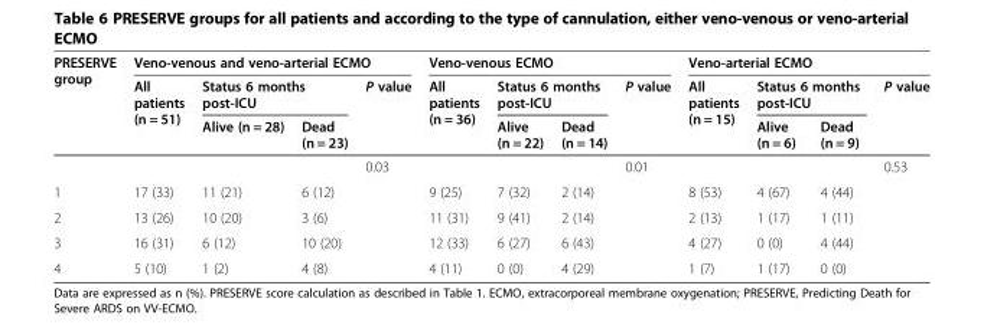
<table><thead><tr><td rowspan="3">PRESERVE group</td><td colspan="4">Veno-venous and veno-arterial ECMO</td><td colspan="4">Veno-venous ECMO</td><td colspan="4">Veno-arterial ECMO</td></tr><tr><td rowspan="2">All patients (n = 51)</td><td colspan="2">Status 6 months post-ICU</td><td rowspan="2">P value</td><td rowspan="2">All patients (n = 36)</td><td colspan="2">Status 6 months post-ICU</td><td rowspan="2">P value</td><td rowspan="2">All patients (n = 15)</td><td colspan="2">Status 6 months post-ICU</td><td rowspan="2">P value</td></tr><tr><td>Alive (n = 28)</td><td>Dead (n = 23)</td><td>Alive (n = 22)</td><td>Dead (n = 14)</td><td>Alive (n = 6)</td><td>Dead (n = 9)</td></tr></thead><tbody><tr><td></td><td></td><td></td><td></td><td>0.03</td><td></td><td></td><td></td><td>0.01</td><td></td><td></td><td></td><td>0.53</td></tr><tr><td>1</td><td>17 (33)</td><td>11 (21)</td><td>6 (12)</td><td></td><td>9 (25)</td><td>7 (32)</td><td>2 (14)</td><td></td><td>8 (53)</td><td>4 (67)</td><td>4 (44)</td><td></td></tr><tr><td>2</td><td>13 (26)</td><td>10 (20)</td><td>3 (6)</td><td></td><td>11 (31)</td><td>9 (41)</td><td>2 (14)</td><td></td><td>2 (13)</td><td>1 (17)</td><td>1 (11)</td><td></td></tr><tr><td>3</td><td>16 (31)</td><td>6 (12)</td><td>10 (20)</td><td></td><td>12 (33)</td><td>6 (27)</td><td>6 (43)</td><td></td><td>4 (27)</td><td>0 (0)</td><td>4 (44)</td><td></td></tr><tr><td>4</td><td>5 (10)</td><td>1 (2)</td><td>4 (8)</td><td></td><td>4 (11)</td><td>0 (0)</td><td>4 (29)</td><td></td><td>1 (7)</td><td>1 (17)</td><td>0 (0)</td><td></td></tr></tbody></table>